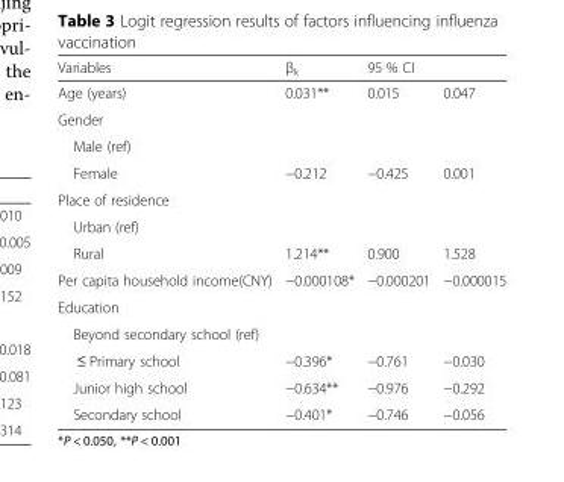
<table><thead><tr><td rowspan="2">Variables Age (years)</td><td rowspan="2">β<sub>k</sub> 0.031**</td><td colspan="2">95 % CI</td></tr><tr><td>0.015</td><td>0.047</td></tr></thead><tbody><tr><td colspan="4">Gender</td></tr><tr><td colspan="4">Male (ref)</td></tr><tr><td>Female</td><td>−0.212</td><td>−0.425</td><td>0.001</td></tr><tr><td colspan="4">Place of residence</td></tr><tr><td colspan="4">Urban (ref)</td></tr><tr><td>Rural</td><td>1.214**</td><td>0.900</td><td>1.528</td></tr><tr><td>Per capita household income(CNY)</td><td>−0.000108*</td><td>−0.000201</td><td>−0.000015</td></tr><tr><td colspan="4">Education</td></tr><tr><td colspan="4">Beyond secondary school (ref)</td></tr><tr><td>≤ Primary school</td><td>−0.396*</td><td>−0.761</td><td>−0.030</td></tr><tr><td>Junior high school</td><td>−0.634**</td><td>−0.976</td><td>−0.292</td></tr><tr><td>Secondary school</td><td>−0.401*</td><td>−0.746</td><td>−0.056</td></tr></tbody></table>